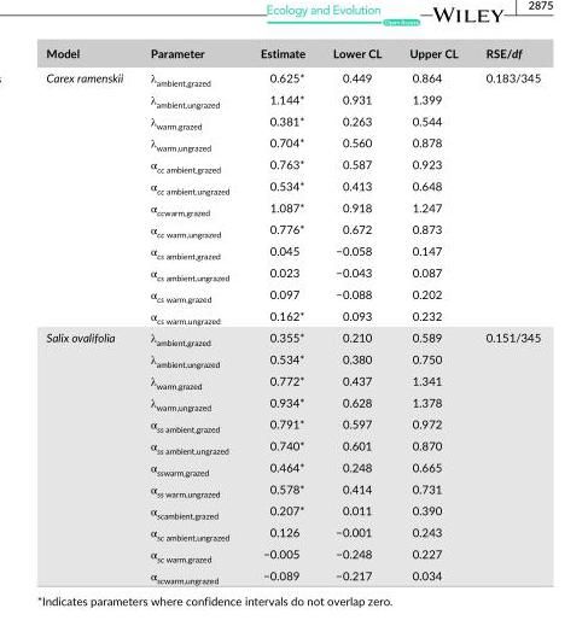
<table><thead><tr><td>Model</td><td>Parameter</td><td>Estimate</td><td>Lower CL</td><td>Upper CL</td><td>RSE/df</td></tr></thead><tbody><tr><td rowspan="12">Carex ramenskii</td><td>λ<sub>ambient,grazed</sub></td><td>0.625*</td><td>0.449</td><td>0.864</td><td rowspan="12">0.183/345</td></tr><tr><td>λ<sub>ambient,ungrazed</sub></td><td>1.144*</td><td>0.931</td><td>1.399</td></tr><tr><td>λ<sub>warm,grazed</sub></td><td>0.381*</td><td>0.263</td><td>0.544</td></tr><tr><td>λ<sub>warm,ungrazed</sub></td><td>0.704*</td><td>0.560</td><td>0.878</td></tr><tr><td>α<sub>cc ambient,grazed</sub></td><td>0.763*</td><td>0.587</td><td>0.923</td></tr><tr><td>α<sub>cc ambient,ungrazed</sub></td><td>0.534*</td><td>0.413</td><td>0.648</td></tr><tr><td>α<sub>ccwarm,grazed</sub></td><td>1.087*</td><td>0.918</td><td>1.247</td></tr><tr><td>α<sub>cc warm,ungrazed</sub></td><td>0.776*</td><td>0.672</td><td>0.873</td></tr><tr><td>α<sub>cs ambient,grazed</sub></td><td>0.045</td><td>−0.058</td><td>0.147</td></tr><tr><td>α<sub>cs ambient,ungrazed</sub></td><td>0.023</td><td>−0.043</td><td>0.087</td></tr><tr><td>α<sub>cs warm,grazed</sub></td><td>0.097</td><td>−0.088</td><td>0.202</td></tr><tr><td>α<sub>cs warm,ungrazed</sub></td><td>0.162*</td><td>0.093</td><td>0.232</td></tr><tr><td rowspan="12">Salix ovalifolia</td><td>λ<sub>ambient,grazed</sub></td><td>0.355*</td><td>0.210</td><td>0.589</td><td rowspan="12">0.151/345</td></tr><tr><td>λ<sub>ambient,ungrazed</sub></td><td>0.534*</td><td>0.380</td><td>0.750</td></tr><tr><td>λ<sub>warm,grazed</sub></td><td>0.772*</td><td>0.437</td><td>1.341</td></tr><tr><td>λ<sub>warm,ungrazed</sub></td><td>0.934*</td><td>0.628</td><td>1.378</td></tr><tr><td>α<sub>ss ambient,grazed</sub></td><td>0.791*</td><td>0.597</td><td>0.972</td></tr><tr><td>α<sub>ss ambient,ungrazed</sub></td><td>0.740*</td><td>0.601</td><td>0.870</td></tr><tr><td>α<sub>sswarm,grazed</sub></td><td>0.464*</td><td>0.248</td><td>0.665</td></tr><tr><td>α<sub>ss warm,ungrazed</sub></td><td>0.578*</td><td>0.414</td><td>0.731</td></tr><tr><td>α<sub>scambient,grazed</sub></td><td>0.207*</td><td>0.011</td><td>0.390</td></tr><tr><td>α<sub>sc ambient,ungrazed</sub></td><td>0.126</td><td>−0.001</td><td>0.243</td></tr><tr><td>α<sub>sc warm,grazed</sub></td><td>−0.005</td><td>−0.248</td><td>0.227</td></tr><tr><td>α<sub>scwarm,ungrazed</sub></td><td>−0.089</td><td>−0.217</td><td>0.034</td></tr></tbody></table>